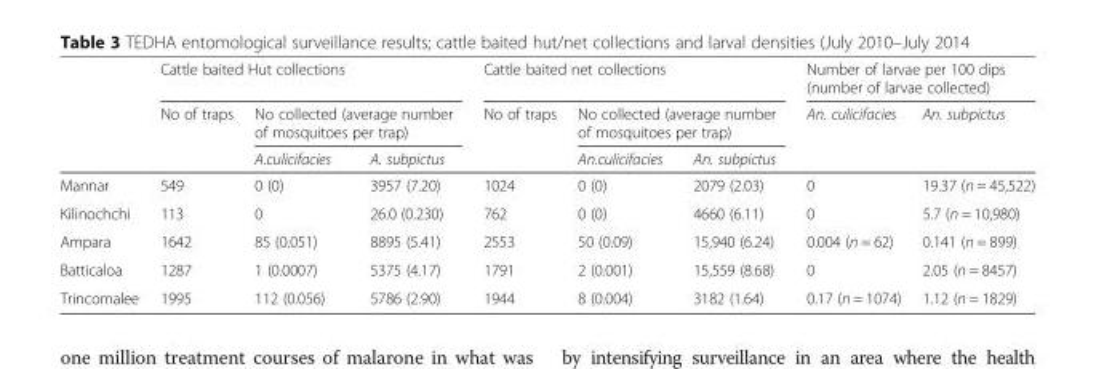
<table><thead><tr><td rowspan="3"></td><td colspan="3">Cattle baited Hut collections</td><td colspan="3">Cattle baited net collections</td><td colspan="2">Number of larvae per 100 dips (number of larvae collected)</td></tr><tr><td rowspan="2">No of traps</td><td colspan="2">No collected (average number of mosquitoes per trap)</td><td rowspan="2">No of traps</td><td colspan="2">No collected (average number of mosquitoes per trap)</td><td rowspan="2">An. culicifacies</td><td rowspan="2">An. subpictus</td></tr><tr><td>A.culicifacies</td><td>A. subpictus</td><td>An.culicifacies</td><td>An. subpictus</td></tr></thead><tbody><tr><td>Mannar</td><td>549</td><td>0 (0)</td><td>3957 (7.20)</td><td>1024</td><td>0 (0)</td><td>2079 (2.03)</td><td>0</td><td>19.37 (n = 45,522)</td></tr><tr><td>Kilinochchi</td><td>113</td><td>0</td><td>26.0 (0.230)</td><td>762</td><td>0 (0)</td><td>4660 (6.11)</td><td>0</td><td>5.7 (n = 10,980)</td></tr><tr><td>Ampara</td><td>1642</td><td>85 (0.051)</td><td>8895 (5.41)</td><td>2553</td><td>50 (0.09)</td><td>15,940 (6.24)</td><td>0.004 (n = 62)</td><td>0.141 (n = 899)</td></tr><tr><td>Batticaloa</td><td>1287</td><td>1 (0.0007)</td><td>5375 (4.17)</td><td>1791</td><td>2 (0.001)</td><td>15,559 (8.68)</td><td>0</td><td>2.05 (n = 8457)</td></tr><tr><td>Trincomalee</td><td>1995</td><td>112 (0.056)</td><td>5786 (2.90)</td><td>1944</td><td>8 (0.004)</td><td>3182 (1.64)</td><td>0.17 (n = 1074)</td><td>1.12 (n = 1829)</td></tr></tbody></table>